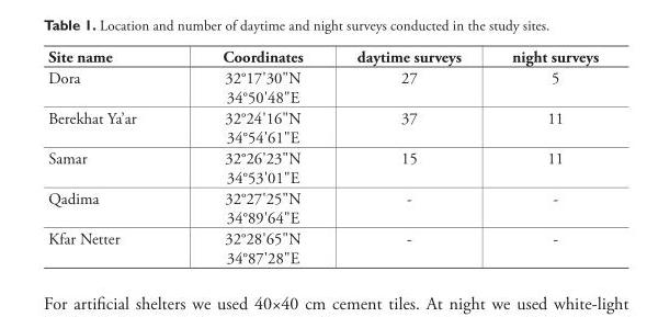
<table><thead><tr><td>Site name</td><td>Coordinates</td><td>daytime surveys</td><td>night surveys</td></tr></thead><tbody><tr><td>Dora</td><td>32°17&#x27;30&quot;N 34°50&#x27;48&quot;E</td><td>27</td><td>5</td></tr><tr><td>Berekhat Ya’ar</td><td>32°24&#x27;16&quot;N 34°54&#x27;61&quot;E</td><td>37</td><td>11</td></tr><tr><td>Samar</td><td>32°26&#x27;23&quot;N 34°53&#x27;01&quot;E</td><td>15</td><td>11</td></tr><tr><td>Qadima</td><td>32°27&#x27;25&quot;N 34°89&#x27;64&quot;E</td><td>-</td><td>-</td></tr><tr><td>Kfar Netter</td><td>32°28&#x27;65&quot;N 34°87&#x27;28&quot;E</td><td>-</td><td>-</td></tr></tbody></table>